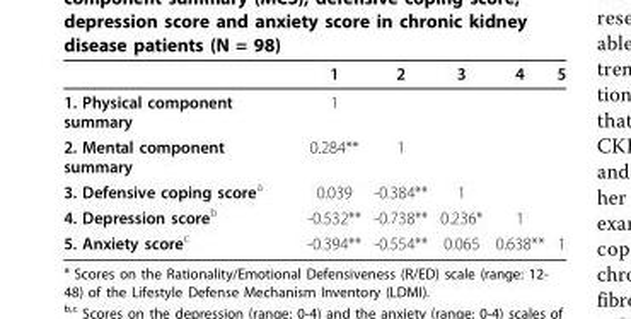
<table><thead><tr><td></td><td>1</td><td>2</td><td>3</td><td>4</td><td>5</td></tr></thead><tbody><tr><td>1. Physical component summary</td><td>1</td><td></td><td></td><td></td><td></td></tr><tr><td>2. Mental component summary</td><td>0.284**</td><td>1</td><td></td><td></td><td></td></tr><tr><td>3. Defensive coping score<sup>a</sup></td><td>0.039</td><td>-0.384**</td><td>1</td><td></td><td></td></tr><tr><td>4. Depression score<sup>b</sup></td><td>-0.532**</td><td>-0.738**</td><td>0.236*</td><td>1</td><td></td></tr><tr><td>5. Anxiety score<sup>c</sup></td><td>-0.394**</td><td>-0.554**</td><td>0.065</td><td>0.638**</td><td>1</td></tr></tbody></table>